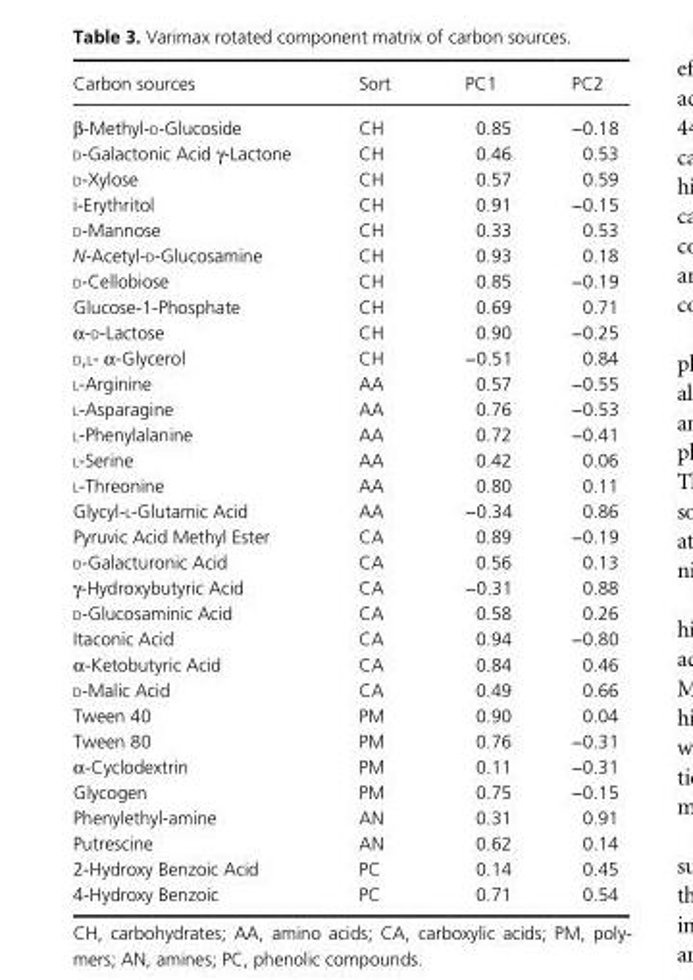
<table><thead><tr><td>Carbon sources</td><td>Sort</td><td>PC1</td><td>PC2</td></tr></thead><tbody><tr><td>β- Methyl- d- Glucoside</td><td>CH</td><td>0.85</td><td>−0.18</td></tr><tr><td>d- Galactonic Acid γ- Lactone</td><td>CH</td><td>0.46</td><td>0.53</td></tr><tr><td>d- Xylose</td><td>CH</td><td>0.57</td><td>0.59</td></tr><tr><td>i- Erythritol</td><td>CH</td><td>0.91</td><td>−0.15</td></tr><tr><td>d- Mannose</td><td>CH</td><td>0.33</td><td>0.53</td></tr><tr><td>N- Acetyl- d- Glucosamine</td><td>CH</td><td>0.93</td><td>0.18</td></tr><tr><td>d- Cellobiose</td><td>CH</td><td>0.85</td><td>−0.19</td></tr><tr><td>Glucose- 1- Phosphate</td><td>CH</td><td>0.69</td><td>0.71</td></tr><tr><td>α- d- Lactose</td><td>CH</td><td>0.90</td><td>−0.25</td></tr><tr><td>d,l- α- Glycerol</td><td>CH</td><td>−0.51</td><td>0.84</td></tr><tr><td>l- Arginine</td><td>AA</td><td>0.57</td><td>−0.55</td></tr><tr><td>l- Asparagine</td><td>AA</td><td>0.76</td><td>−0.53</td></tr><tr><td>l- Phenylalanine</td><td>AA</td><td>0.72</td><td>−0.41</td></tr><tr><td>l- Serine</td><td>AA</td><td>0.42</td><td>0.06</td></tr><tr><td>l- Threonine</td><td>AA</td><td>0.80</td><td>0.11</td></tr><tr><td>Glycyl- l- Glutamic Acid</td><td>AA</td><td>−0.34</td><td>0.86</td></tr><tr><td>Pyruvic Acid Methyl Ester</td><td>CA</td><td>0.89</td><td>−0.19</td></tr><tr><td>d- Galacturonic Acid</td><td>CA</td><td>0.56</td><td>0.13</td></tr><tr><td>γ- Hydroxybutyric Acid</td><td>CA</td><td>−0.31</td><td>0.88</td></tr><tr><td>d- Glucosaminic Acid</td><td>CA</td><td>0.58</td><td>0.26</td></tr><tr><td>Itaconic Acid</td><td>CA</td><td>0.94</td><td>−0.80</td></tr><tr><td>α- Ketobutyric Acid</td><td>CA</td><td>0.84</td><td>0.46</td></tr><tr><td>d- Malic Acid</td><td>CA</td><td>0.49</td><td>0.66</td></tr><tr><td>Tween 40</td><td>PM</td><td>0.90</td><td>0.04</td></tr><tr><td>Tween 80</td><td>PM</td><td>0.76</td><td>−0.31</td></tr><tr><td>α- Cyclodextrin</td><td>PM</td><td>0.11</td><td>−0.31</td></tr><tr><td>Glycogen</td><td>PM</td><td>0.75</td><td>−0.15</td></tr><tr><td>Phenylethyl- amine</td><td>AN</td><td>0.31</td><td>0.91</td></tr><tr><td>Putrescine</td><td>AN</td><td>0.62</td><td>0.14</td></tr><tr><td>2- Hydroxy Benzoic Acid</td><td>PC</td><td>0.14</td><td>0.45</td></tr><tr><td>4- Hydroxy Benzoic</td><td>PC</td><td>0.71</td><td>0.54</td></tr></tbody></table>